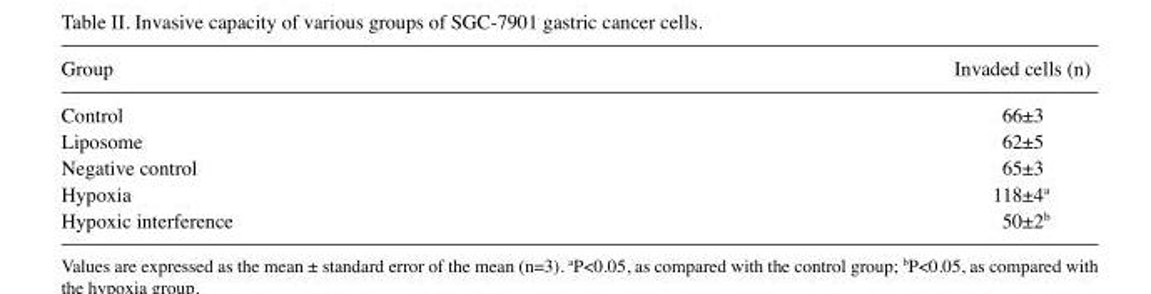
<table><thead><tr><td>Group</td><td>Invaded cells (n)</td></tr></thead><tbody><tr><td>Control</td><td>66±3</td></tr><tr><td>Liposome</td><td>62±5</td></tr><tr><td>Negative control</td><td>65±3</td></tr><tr><td>Hypoxia</td><td>118±4<sup>a</sup></td></tr><tr><td>Hypoxic interference</td><td>50±2<sup>b</sup></td></tr></tbody></table>